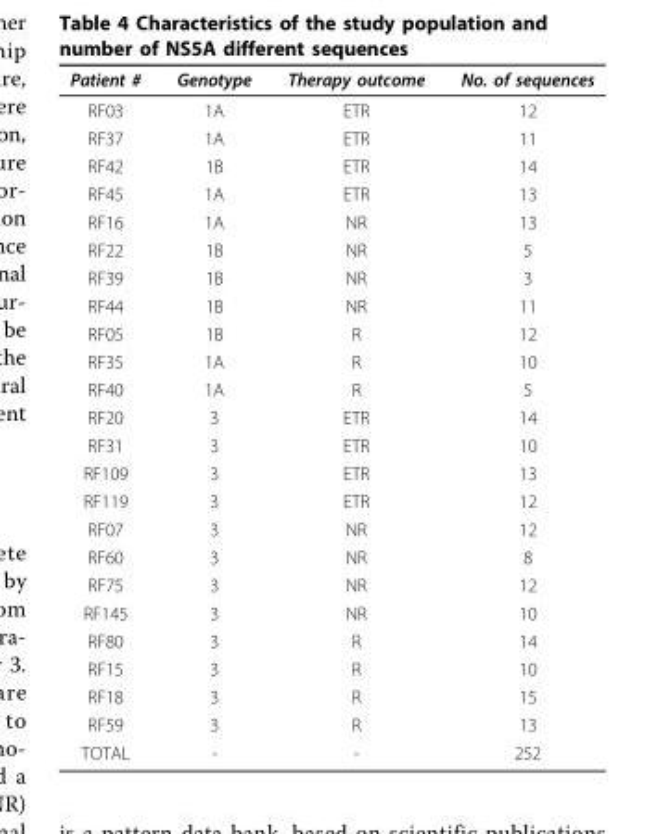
<table><thead><tr><td>Patient #</td><td>Genotype</td><td>Therapy outcome</td><td>No. of sequences</td></tr></thead><tbody><tr><td>RF03</td><td>1A</td><td>ETR</td><td>12</td></tr><tr><td>RF37</td><td>1A</td><td>ETR</td><td>11</td></tr><tr><td>RF42</td><td>1B</td><td>ETR</td><td>14</td></tr><tr><td>RF45</td><td>1A</td><td>ETR</td><td>13</td></tr><tr><td>RF16</td><td>1A</td><td>NR</td><td>13</td></tr><tr><td>RF22</td><td>1B</td><td>NR</td><td>5</td></tr><tr><td>RF39</td><td>1B</td><td>NR</td><td>3</td></tr><tr><td>RF44</td><td>1B</td><td>NR</td><td>11</td></tr><tr><td>RF05</td><td>1B</td><td>R</td><td>12</td></tr><tr><td>RF35</td><td>1A</td><td>R</td><td>10</td></tr><tr><td>RF40</td><td>1A</td><td>R</td><td>5</td></tr><tr><td>RF20</td><td>3</td><td>ETR</td><td>14</td></tr><tr><td>RF31</td><td>3</td><td>ETR</td><td>10</td></tr><tr><td>RF109</td><td>3</td><td>ETR</td><td>13</td></tr><tr><td>RF119</td><td>3</td><td>ETR</td><td>12</td></tr><tr><td>RF07</td><td>3</td><td>NR</td><td>12</td></tr><tr><td>RF60</td><td>3</td><td>NR</td><td>8</td></tr><tr><td>RF75</td><td>3</td><td>NR</td><td>12</td></tr><tr><td>RF145</td><td>3</td><td>NR</td><td>10</td></tr><tr><td>RF80</td><td>3</td><td>R</td><td>14</td></tr><tr><td>RF15</td><td>3</td><td>R</td><td>10</td></tr><tr><td>RF18</td><td>3</td><td>R</td><td>15</td></tr><tr><td>RF59</td><td>3</td><td>R</td><td>13</td></tr><tr><td>TOTAL</td><td>-</td><td>-</td><td>252</td></tr></tbody></table>